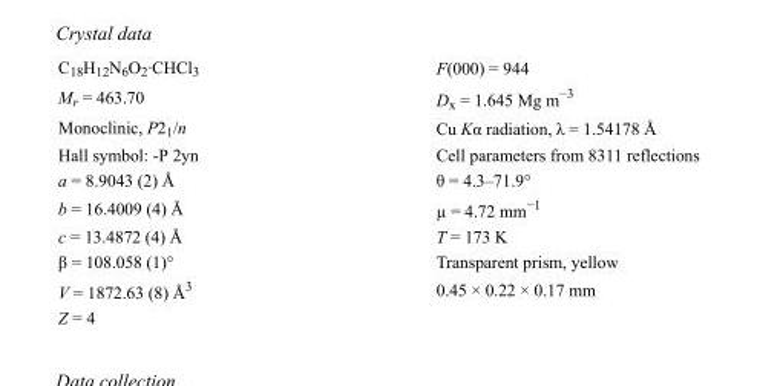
<table><tbody><tr><td>C<sub>18</sub>H<sub>12</sub>N<sub>6</sub>O<sub>2</sub>·CHCl<sub>3</sub></td><td>F(000) = 944</td></tr><tr><td>M<sub>r</sub> = 463.70</td><td>D<sub>x</sub> = 1.645 Mg m<sup>−3</sup></td></tr><tr><td>Monoclinic, P2<sub>1</sub>/n</td><td>Cu Kα radiation, λ = 1.54178 Å</td></tr><tr><td>Hall symbol: -P 2yn</td><td>Cell parameters from 8311 reflections</td></tr><tr><td>a = 8.9043 (2) Å</td><td>θ = 4.3–71.9°</td></tr><tr><td>b = 16.4009 (4) Å</td><td>µ = 4.72 mm<sup>−1</sup></td></tr><tr><td>c = 13.4872 (4) Å</td><td>T = 173 K</td></tr><tr><td>β = 108.058 (1)°</td><td>Transparent prism, yellow</td></tr><tr><td>V = 1872.63 (8) Å<sup>3</sup></td><td>0.45 × 0.22 × 0.17 mm</td></tr><tr><td>Z = 4</td><td></td></tr></tbody></table>